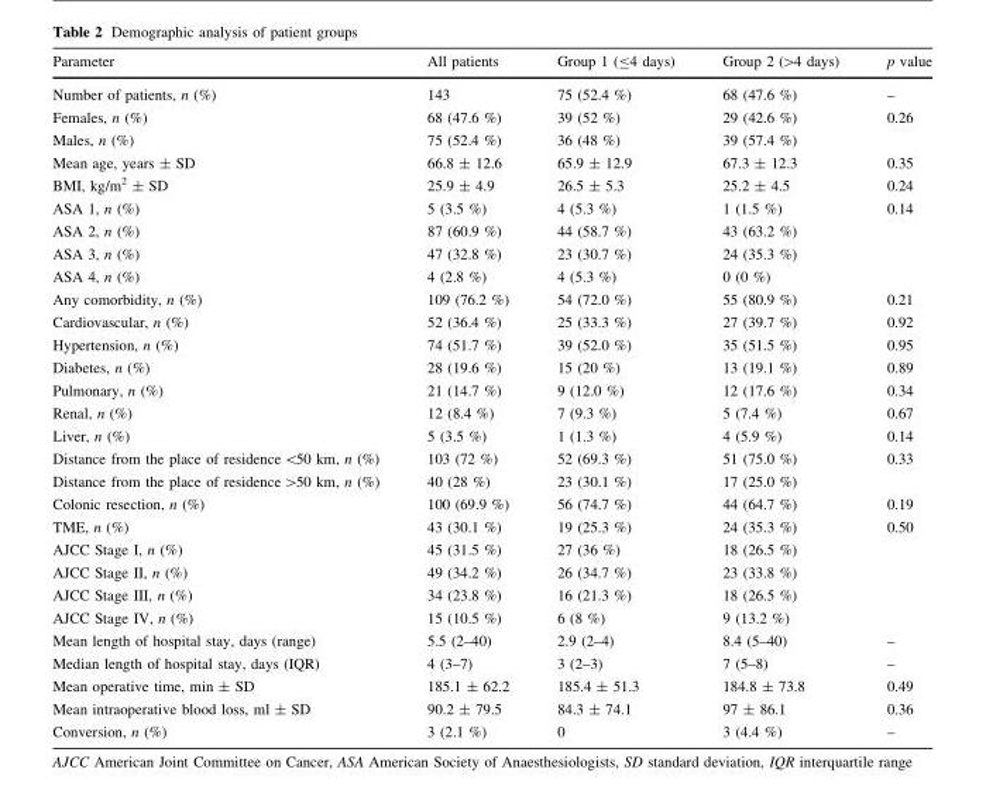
<table><thead><tr><td>Parameter</td><td>All patients</td><td>Group 1 (≤4 days)</td><td>Group 2 (&gt;4 days)</td><td>p value</td></tr></thead><tbody><tr><td>Number of patients, n (%)</td><td>143</td><td>75 (52.4 %)</td><td>68 (47.6 %)</td><td>–</td></tr><tr><td>Females, n (%)</td><td>68 (47.6 %)</td><td>39 (52 %)</td><td>29 (42.6 %)</td><td>0.26</td></tr><tr><td>Males, n (%)</td><td>75 (52.4 %)</td><td>36 (48 %)</td><td>39 (57.4 %)</td><td></td></tr><tr><td>Mean age, years ± SD</td><td>66.8 ± 12.6</td><td>65.9 ± 12.9</td><td>67.3 ± 12.3</td><td>0.35</td></tr><tr><td>BMI, kg/m<sup>2</sup> ± SD</td><td>25.9 ± 4.9</td><td>26.5 ± 5.3</td><td>25.2 ± 4.5</td><td>0.24</td></tr><tr><td>ASA 1, n (%)</td><td>5 (3.5 %)</td><td>4 (5.3 %)</td><td>1 (1.5 %)</td><td rowspan="4">0.14</td></tr><tr><td>ASA 2, n (%)</td><td>87 (60.9 %)</td><td>44 (58.7 %)</td><td>43 (63.2 %)</td></tr><tr><td>ASA 3, n (%)</td><td>47 (32.8 %)</td><td>23 (30.7 %)</td><td>24 (35.3 %)</td></tr><tr><td>ASA 4, n (%)</td><td>4 (2.8 %)</td><td>4 (5.3 %)</td><td>0 (0 %)</td></tr><tr><td>Any comorbidity, n (%)</td><td>109 (76.2 %)</td><td>54 (72.0 %)</td><td>55 (80.9 %)</td><td>0.21</td></tr><tr><td>Cardiovascular, n (%)</td><td>52 (36.4 %)</td><td>25 (33.3 %)</td><td>27 (39.7 %)</td><td>0.92</td></tr><tr><td>Hypertension, n (%)</td><td>74 (51.7 %)</td><td>39 (52.0 %)</td><td>35 (51.5 %)</td><td>0.95</td></tr><tr><td>Diabetes, n (%)</td><td>28 (19.6 %)</td><td>15 (20 %)</td><td>13 (19.1 %)</td><td>0.89</td></tr><tr><td>Pulmonary, n (%)</td><td>21 (14.7 %)</td><td>9 (12.0 %)</td><td>12 (17.6 %)</td><td>0.34</td></tr><tr><td>Renal, n (%)</td><td>12 (8.4 %)</td><td>7 (9.3 %)</td><td>5 (7.4 %)</td><td>0.67</td></tr><tr><td>Liver, n (%)</td><td>5 (3.5 %)</td><td>1 (1.3 %)</td><td>4 (5.9 %)</td><td>0.14</td></tr><tr><td>Distance from the place of residence &lt;50 km, n (%)</td><td>103 (72 %)</td><td>52 (69.3 %)</td><td>51 (75.0 %)</td><td rowspan="2">0.33</td></tr><tr><td>Distance from the place of residence &gt;50 km, n (%)</td><td>40 (28 %)</td><td>23 (30.1 %)</td><td>17 (25.0 %)</td></tr><tr><td>Colonic resection, n (%)</td><td>100 (69.9 %)</td><td>56 (74.7 %)</td><td>44 (64.7 %)</td><td>0.19</td></tr><tr><td>TME, n (%)</td><td>43 (30.1 %)</td><td>19 (25.3 %)</td><td>24 (35.3 %)</td><td rowspan="5">0.50</td></tr><tr><td>AJCC Stage I, n (%)</td><td>45 (31.5 %)</td><td>27 (36 %)</td><td>18 (26.5 %)</td></tr><tr><td>AJCC Stage II, n (%)</td><td>49 (34.2 %)</td><td>26 (34.7 %)</td><td>23 (33.8 %)</td></tr><tr><td>AJCC Stage III, n (%)</td><td>34 (23.8 %)</td><td>16 (21.3 %)</td><td>18 (26.5 %)</td></tr><tr><td>AJCC Stage IV, n (%)</td><td>15 (10.5 %)</td><td>6 (8 %)</td><td>9 (13.2 %)</td></tr><tr><td>Mean length of hospital stay, days (range)</td><td>5.5 (2–40)</td><td>2.9 (2–4)</td><td>8.4 (5–40)</td><td>–</td></tr><tr><td>Median length of hospital stay, days (IQR)</td><td>4 (3–7)</td><td>3 (2–3)</td><td>7 (5–8)</td><td>–</td></tr><tr><td>Mean operative time, min ± SD</td><td>185.1 ± 62.2</td><td>185.4 ± 51.3</td><td>184.8 ± 73.8</td><td>0.49</td></tr><tr><td>Mean intraoperative blood loss, ml ± SD</td><td>90.2 ± 79.5</td><td>84.3 ± 74.1</td><td>97 ± 86.1</td><td>0.36</td></tr><tr><td>Conversion, n (%)</td><td>3 (2.1 %)</td><td>0</td><td>3 (4.4 %)</td><td>–</td></tr></tbody></table>